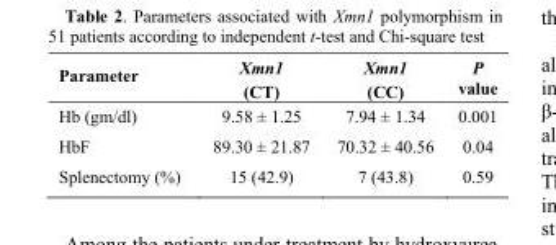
<table><thead><tr><td>Parameter</td><td>Xmn1 (CT)</td><td>Xmn1 (CC)</td><td>P value</td></tr></thead><tbody><tr><td>Hb (gm/dl)</td><td>9.58 ± 1.25</td><td>7.94 ± 1.34</td><td>0.001</td></tr><tr><td>HbF</td><td>89.30 ± 21.87</td><td>70.32 ± 40.56</td><td>0.04</td></tr><tr><td>Splenectomy (%)</td><td>15 (42.9)</td><td>7 (43.8)</td><td>0.59</td></tr></tbody></table>